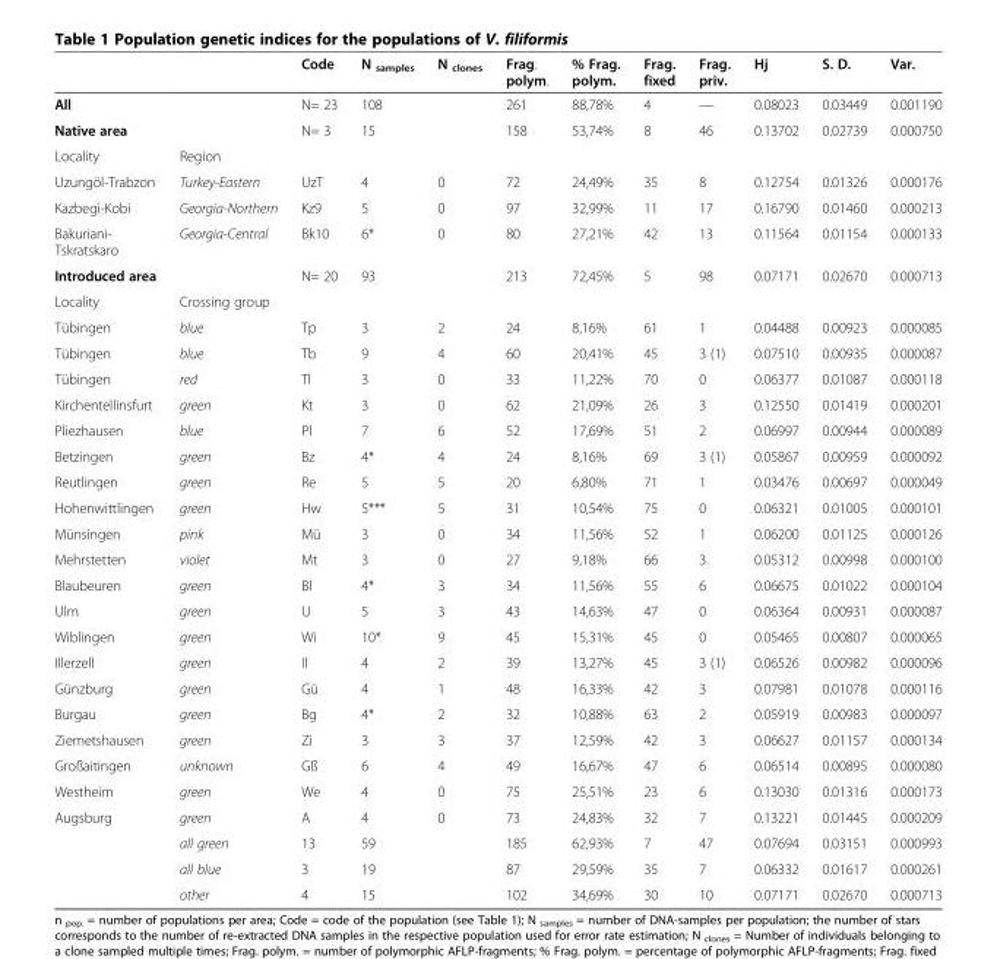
<table><thead><tr><td></td><td></td><td>Code</td><td>N <sub>samples</sub></td><td>N <sub>clones</sub></td><td>Frag. polym.</td><td>% Frag. polym.</td><td>Frag. fixed</td><td>Frag. priv.</td><td>Hj</td><td>S. D.</td><td>Var.</td></tr></thead><tbody><tr><td>All</td><td></td><td>N= 23</td><td>108</td><td></td><td>261</td><td>88,78%</td><td>4</td><td>—</td><td>0.08023</td><td>0.03449</td><td>0.001190</td></tr><tr><td>Native area</td><td></td><td>N= 3</td><td>15</td><td></td><td>158</td><td>53,74%</td><td>8</td><td>46</td><td>0.13702</td><td>0.02739</td><td>0.000750</td></tr><tr><td>Locality</td><td>Region</td><td></td><td></td><td></td><td></td><td></td><td></td><td></td><td></td><td></td><td></td></tr><tr><td>Uzungöl-Trabzon</td><td>Turkey-Eastern</td><td>UzT</td><td>4</td><td>0</td><td>72</td><td>24,49%</td><td>35</td><td>8</td><td>0.12754</td><td>0.01326</td><td>0.000176</td></tr><tr><td>Kazbegi-Kobi</td><td>Georgia-Northern</td><td>Kz9</td><td>5</td><td>0</td><td>97</td><td>32,99%</td><td>11</td><td>17</td><td>0.16790</td><td>0.01460</td><td>0.000213</td></tr><tr><td>Bakuriani- Tskratskaro</td><td>Georgia-Central</td><td>Bk10</td><td>6*</td><td>0</td><td>80</td><td>27,21%</td><td>42</td><td>13</td><td>0.11564</td><td>0.01154</td><td>0.000133</td></tr><tr><td>Introduced area</td><td></td><td>N= 20</td><td>93</td><td></td><td>213</td><td>72,45%</td><td>5</td><td>98</td><td>0.07171</td><td>0.02670</td><td>0.000713</td></tr><tr><td>Locality</td><td>Crossing group</td><td></td><td></td><td></td><td></td><td></td><td></td><td></td><td></td><td></td><td></td></tr><tr><td>Tübingen</td><td>blue</td><td>Tp</td><td>3</td><td>2</td><td>24</td><td>8,16%</td><td>61</td><td>1</td><td>0.04488</td><td>0.00923</td><td>0.000085</td></tr><tr><td>Tübingen</td><td>blue</td><td>Tb</td><td>9</td><td>4</td><td>60</td><td>20,41%</td><td>45</td><td>3 (1)</td><td>0.07510</td><td>0.00935</td><td>0.000087</td></tr><tr><td>Tübingen</td><td>red</td><td>Tl</td><td>3</td><td>0</td><td>33</td><td>11,22%</td><td>70</td><td>0</td><td>0.06377</td><td>0.01087</td><td>0.000118</td></tr><tr><td>Kirchentellinsfurt</td><td>green</td><td>Kt</td><td>3</td><td>0</td><td>62</td><td>21,09%</td><td>26</td><td>3</td><td>0.12550</td><td>0.01419</td><td>0.000201</td></tr><tr><td>Pliezhausen</td><td>blue</td><td>Pl</td><td>7</td><td>6</td><td>52</td><td>17,69%</td><td>51</td><td>2</td><td>0.06997</td><td>0.00944</td><td>0.000089</td></tr><tr><td>Betzingen</td><td>green</td><td>Bz</td><td>4*</td><td>4</td><td>24</td><td>8,16%</td><td>69</td><td>3 (1)</td><td>0.05867</td><td>0.00959</td><td>0.000092</td></tr><tr><td>Reutlingen</td><td>green</td><td>Re</td><td>5</td><td>5</td><td>20</td><td>6,80%</td><td>71</td><td>1</td><td>0.03476</td><td>0.00697</td><td>0.000049</td></tr><tr><td>Hohenwittlingen</td><td>green</td><td>Hw</td><td>5***</td><td>5</td><td>31</td><td>10,54%</td><td>75</td><td>0</td><td>0.06321</td><td>0.01005</td><td>0.000101</td></tr><tr><td>Münsingen</td><td>pink</td><td>Mü</td><td>3</td><td>0</td><td>34</td><td>11,56%</td><td>52</td><td>1</td><td>0.06200</td><td>0.01125</td><td>0.000126</td></tr><tr><td>Mehrstetten</td><td>violet</td><td>Mt</td><td>3</td><td>0</td><td>27</td><td>9,18%</td><td>66</td><td>3</td><td>0.05312</td><td>0.00998</td><td>0.000100</td></tr><tr><td>Blaubeuren</td><td>green</td><td>Bl</td><td>4*</td><td>3</td><td>34</td><td>11,56%</td><td>55</td><td>6</td><td>0.06675</td><td>0.01022</td><td>0.000104</td></tr><tr><td>Ulm</td><td>green</td><td>U</td><td>5</td><td>3</td><td>43</td><td>14,63%</td><td>47</td><td>0</td><td>0.06364</td><td>0.00931</td><td>0.000087</td></tr><tr><td>Wiblingen</td><td>green</td><td>Wi</td><td>10*</td><td>9</td><td>45</td><td>15,31%</td><td>45</td><td>0</td><td>0.05465</td><td>0.00807</td><td>0.000065</td></tr><tr><td>Illerzell</td><td>green</td><td>Il</td><td>4</td><td>2</td><td>39</td><td>13,27%</td><td>45</td><td>3 (1)</td><td>0.06526</td><td>0.00982</td><td>0.000096</td></tr><tr><td>Günzburg</td><td>green</td><td>Gü</td><td>4</td><td>1</td><td>48</td><td>16,33%</td><td>42</td><td>3</td><td>0.07981</td><td>0.01078</td><td>0.000116</td></tr><tr><td>Burgau</td><td>green</td><td>Bg</td><td>4*</td><td>2</td><td>32</td><td>10,88%</td><td>63</td><td>2</td><td>0.05919</td><td>0.00983</td><td>0.000097</td></tr><tr><td>Ziemetshausen</td><td>green</td><td>Zi</td><td>3</td><td>3</td><td>37</td><td>12,59%</td><td>42</td><td>3</td><td>0.06627</td><td>0.01157</td><td>0.000134</td></tr><tr><td>Großaitingen</td><td>unknown</td><td>Gß</td><td>6</td><td>4</td><td>49</td><td>16,67%</td><td>47</td><td>6</td><td>0.06514</td><td>0.00895</td><td>0.000080</td></tr><tr><td>Westheim</td><td>green</td><td>We</td><td>4</td><td>0</td><td>75</td><td>25,51%</td><td>23</td><td>6</td><td>0.13030</td><td>0.01316</td><td>0.000173</td></tr><tr><td rowspan="4">Augsburg</td><td>green</td><td>A</td><td>4</td><td>0</td><td>73</td><td>24,83%</td><td>32</td><td>7</td><td>0.13221</td><td>0.01445</td><td>0.000209</td></tr><tr><td>all green</td><td>13</td><td>59</td><td></td><td>185</td><td>62,93%</td><td>7</td><td>47</td><td>0.07694</td><td>0.03151</td><td>0.000993</td></tr><tr><td>all blue</td><td>3</td><td>19</td><td></td><td>87</td><td>29,59%</td><td>35</td><td>7</td><td>0.06332</td><td>0.01617</td><td>0.000261</td></tr><tr><td>other</td><td>4</td><td>15</td><td></td><td>102</td><td>34,69%</td><td>30</td><td>10</td><td>0.07171</td><td>0.02670</td><td>0.000713</td></tr></tbody></table>